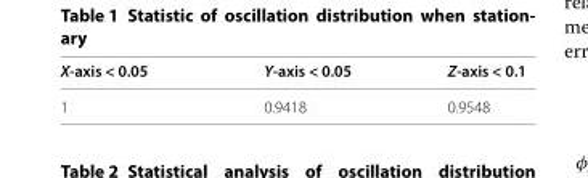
<table><thead><tr><td>X-axis &lt; 0.05</td><td>Y-axis &lt; 0.05</td><td>Z-axis &lt; 0.1</td></tr></thead><tbody><tr><td>1</td><td>0.9418</td><td>0.9548</td></tr></tbody></table>